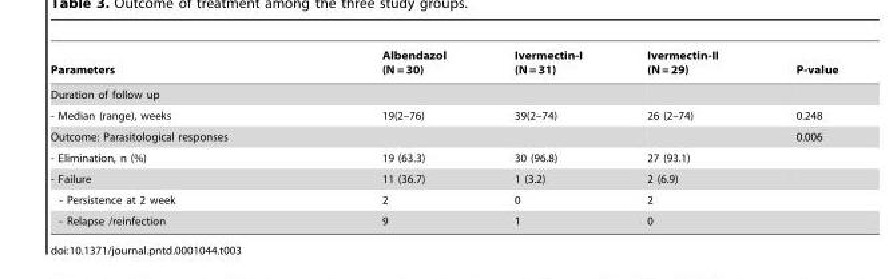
<table><thead><tr><td>Parameters</td><td>Albendazol (N = 30)</td><td>Ivermectin-I (N = 31)</td><td>Ivermectin-II (N = 29)</td><td>P-value</td></tr></thead><tbody><tr><td colspan="5">Duration of follow up</td></tr><tr><td>- Median (range), weeks</td><td>19(2–76)</td><td>39(2–74)</td><td>26 (2–74)</td><td>0.248</td></tr><tr><td>Outcome: Parasitological responses</td><td></td><td></td><td></td><td>0.006</td></tr><tr><td>- Elimination, n (%)</td><td>19 (63.3)</td><td>30 (96.8)</td><td>27 (93.1)</td><td></td></tr><tr><td>- Failure</td><td>11 (36.7)</td><td>1 (3.2)</td><td>2 (6.9)</td><td></td></tr><tr><td>- Persistence at 2 week</td><td>2</td><td>0</td><td>2</td><td></td></tr><tr><td>- Relapse /reinfection</td><td>9</td><td>1</td><td>0</td><td></td></tr></tbody></table>